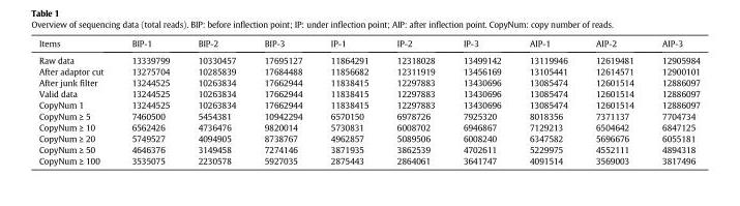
<table><thead><tr><td>Items</td><td>BIP-1</td><td>BIP-2</td><td>BIP-3</td><td>IP-1</td><td>IP-2</td><td>IP-3</td><td>AIP-1</td><td>AIP-2</td><td>AIP-3</td></tr></thead><tbody><tr><td>Raw data</td><td>13339799</td><td>10330457</td><td>17695127</td><td>11864291</td><td>12318028</td><td>13499142</td><td>13119946</td><td>12619481</td><td>12905984</td></tr><tr><td>After adaptor cut</td><td>13275704</td><td>10285839</td><td>17684488</td><td>11856682</td><td>12311919</td><td>13456169</td><td>13105441</td><td>12614571</td><td>12900101</td></tr><tr><td>After junk filter</td><td>13244525</td><td>10263834</td><td>17662944</td><td>11838415</td><td>12297883</td><td>13430696</td><td>13085474</td><td>12601514</td><td>12886097</td></tr><tr><td>Valid data</td><td>13244525</td><td>10263834</td><td>17662944</td><td>11838415</td><td>12297883</td><td>13430696</td><td>13085474</td><td>12601514</td><td>12886097</td></tr><tr><td>CopyNum 1</td><td>13244525</td><td>10263834</td><td>17662944</td><td>11838415</td><td>12297883</td><td>13430696</td><td>13085474</td><td>12601514</td><td>12886097</td></tr><tr><td>CopyNum ≥ 5</td><td>7460500</td><td>5454381</td><td>10942294</td><td>6570150</td><td>6978726</td><td>7925320</td><td>8018356</td><td>7371137</td><td>7704734</td></tr><tr><td>CopyNum ≥ 10</td><td>6562426</td><td>4736476</td><td>9820014</td><td>5730831</td><td>6008702</td><td>6946867</td><td>7129213</td><td>6504642</td><td>6847125</td></tr><tr><td>CopyNum ≥ 20</td><td>5749527</td><td>4094905</td><td>8738767</td><td>4962857</td><td>5089506</td><td>6008240</td><td>6347582</td><td>5696676</td><td>6055181</td></tr><tr><td>CopyNum ≥ 50</td><td>4646376</td><td>3149458</td><td>7274146</td><td>3871935</td><td>3862539</td><td>4702611</td><td>5229975</td><td>4552111</td><td>4894318</td></tr><tr><td>CopyNum ≥ 100</td><td>3535075</td><td>2230578</td><td>5927035</td><td>2875443</td><td>2864061</td><td>3641747</td><td>4091514</td><td>3569003</td><td>3817496</td></tr></tbody></table>